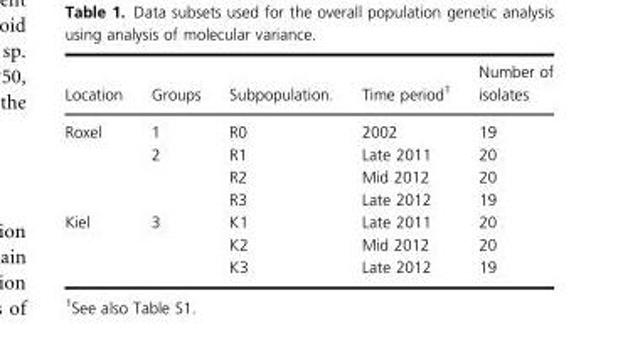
<table><thead><tr><td>Location</td><td>Groups</td><td>Subpopulation.</td><td>Time period<sup>1</sup></td><td>Number of isolates</td></tr></thead><tbody><tr><td rowspan="4">Roxel</td><td>1</td><td>R0</td><td>2002</td><td>19</td></tr><tr><td>2</td><td>R1</td><td>Late 2011</td><td>20</td></tr><tr><td></td><td>R2</td><td>Mid 2012</td><td>20</td></tr><tr><td></td><td>R3</td><td>Late 2012</td><td>19</td></tr><tr><td rowspan="3">Kiel</td><td>3</td><td>K1</td><td>Late 2011</td><td>20</td></tr><tr><td></td><td>K2</td><td>Mid 2012</td><td>20</td></tr><tr><td></td><td>K3</td><td>Late 2012</td><td>19</td></tr></tbody></table>